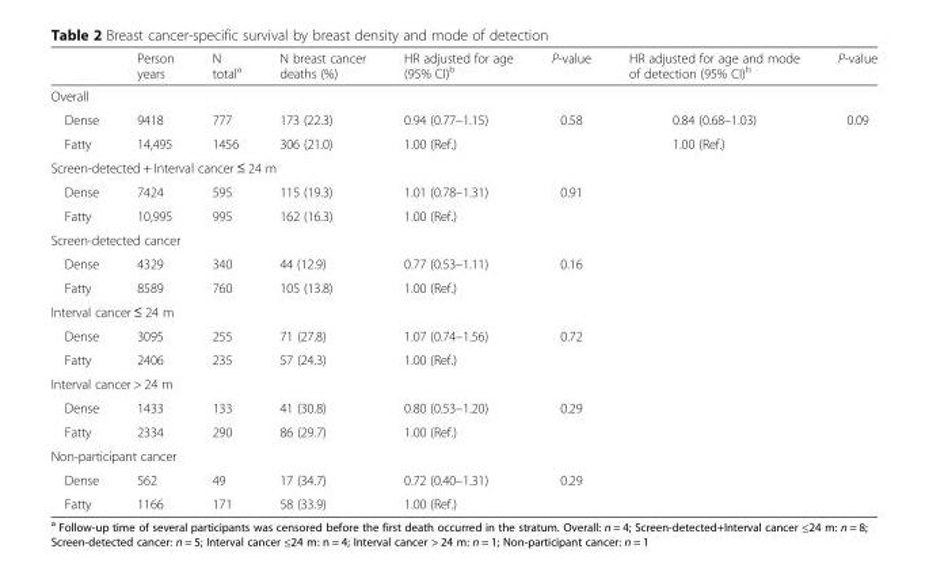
<table><thead><tr><td></td><td>Person years</td><td>N total<sup>a</sup></td><td>N breast cancer deaths (%)</td><td>HR adjusted for age (95% CI)<sup>b</sup></td><td>P-value</td><td>HR adjusted for age and mode of detection (95% CI)<sup>b</sup></td><td>P-value</td></tr></thead><tbody><tr><td colspan="8">Overall</td></tr><tr><td>Dense</td><td>9418</td><td>777</td><td>173 (22.3)</td><td>0.94 (0.77–1.15)</td><td>0.58</td><td>0.84 (0.68–1.03)</td><td>0.09</td></tr><tr><td>Fatty</td><td>14,495</td><td>1456</td><td>306 (21.0)</td><td>1.00 (Ref.)</td><td></td><td>1.00 (Ref.)</td><td></td></tr><tr><td colspan="8">Screen-detected + Interval cancer ≤ 24 m</td></tr><tr><td>Dense</td><td>7424</td><td>595</td><td>115 (19.3)</td><td>1.01 (0.78–1.31)</td><td>0.91</td><td></td><td></td></tr><tr><td>Fatty</td><td>10,995</td><td>995</td><td>162 (16.3)</td><td>1.00 (Ref.)</td><td></td><td></td><td></td></tr><tr><td colspan="8">Screen-detected cancer</td></tr><tr><td>Dense</td><td>4329</td><td>340</td><td>44 (12.9)</td><td>0.77 (0.53–1.11)</td><td>0.16</td><td></td><td></td></tr><tr><td>Fatty</td><td>8589</td><td>760</td><td>105 (13.8)</td><td>1.00 (Ref.)</td><td></td><td></td><td></td></tr><tr><td colspan="8">Interval cancer ≤ 24 m</td></tr><tr><td>Dense</td><td>3095</td><td>255</td><td>71 (27.8)</td><td>1.07 (0.74–1.56)</td><td>0.72</td><td></td><td></td></tr><tr><td>Fatty</td><td>2406</td><td>235</td><td>57 (24.3)</td><td>1.00 (Ref.)</td><td></td><td></td><td></td></tr><tr><td colspan="8">Interval cancer &gt; 24 m</td></tr><tr><td>Dense</td><td>1433</td><td>133</td><td>41 (30.8)</td><td>0.80 (0.53–1.20)</td><td>0.29</td><td></td><td></td></tr><tr><td>Fatty</td><td>2334</td><td>290</td><td>86 (29.7)</td><td>1.00 (Ref.)</td><td></td><td></td><td></td></tr><tr><td colspan="8">Non-participant cancer</td></tr><tr><td>Dense</td><td>562</td><td>49</td><td>17 (34.7)</td><td>0.72 (0.40–1.31)</td><td>0.29</td><td></td><td></td></tr><tr><td>Fatty</td><td>1166</td><td>171</td><td>58 (33.9)</td><td>1.00 (Ref.)</td><td></td><td></td><td></td></tr></tbody></table>